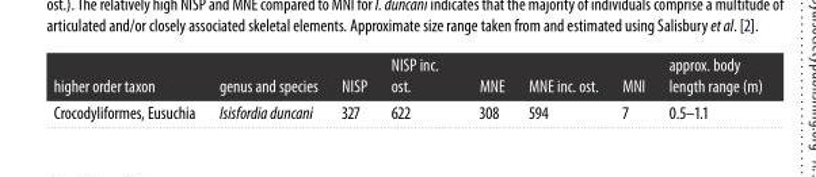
<table><thead><tr><td>higher order taxon</td><td>genus and species</td><td>NISP</td><td>NISP inc. ost.</td><td>MNE</td><td>MNE inc. ost.</td><td>MNI</td><td>approx. body length range (m)</td></tr></thead><tbody><tr><td>Crocodyliformes, Eusuchia</td><td>Isisfordiaduncani</td><td>327</td><td>622</td><td>308</td><td>594</td><td>7</td><td>0.5–1.1</td></tr></tbody></table>